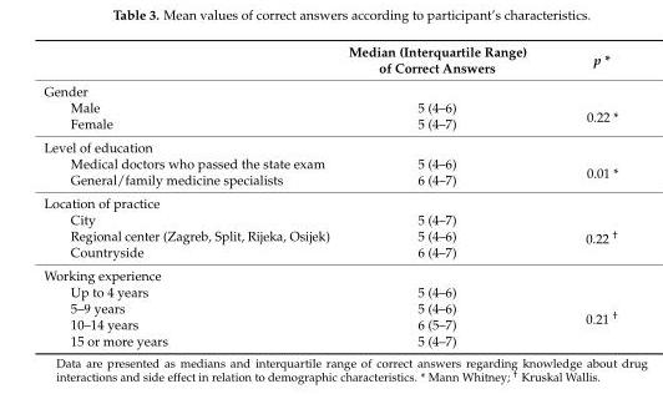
<table><thead><tr><td></td><td>Median (Interquartile Range) of Correct Answers</td><td>p *</td></tr></thead><tbody><tr><td colspan="3">Gender</td></tr><tr><td>Male</td><td>5 (4–6)</td><td rowspan="2">0.22 *</td></tr><tr><td>Female</td><td>5 (4–7)</td></tr><tr><td colspan="3">Level of education</td></tr><tr><td>Medical doctors who passed the state exam</td><td>5 (4–6)</td><td rowspan="2">0.01 *</td></tr><tr><td>General/family medicine specialists</td><td>6 (4–7)</td></tr><tr><td colspan="3">Location of practice</td></tr><tr><td>City</td><td>5 (4–7)</td><td rowspan="3">0.22 <sup>†</sup></td></tr><tr><td>Regional center (Zagreb, Split, Rijeka, Osijek)</td><td>5 (4–6)</td></tr><tr><td>Countryside</td><td>6 (4–7)</td></tr><tr><td colspan="3">Working experience</td></tr><tr><td>Up to 4 years</td><td>5 (4–6)</td><td rowspan="4">0.21 <sup>†</sup></td></tr><tr><td>5–9 years</td><td>5 (4–6)</td></tr><tr><td>10–14 years</td><td>6 (5–7)</td></tr><tr><td>15 or more years</td><td>5 (4–7)</td></tr></tbody></table>